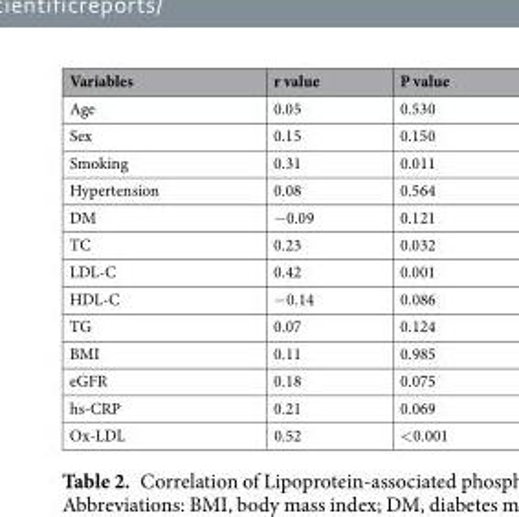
<table><thead><tr><td>Variables</td><td>r value</td><td>P value</td></tr></thead><tbody><tr><td>Age</td><td>0.05</td><td>0.530</td></tr><tr><td>Sex</td><td>0.15</td><td>0.150</td></tr><tr><td>Smoking</td><td>0.31</td><td>0.011</td></tr><tr><td>Hypertension</td><td>0.08</td><td>0.564</td></tr><tr><td>DM</td><td>−0.09</td><td>0.121</td></tr><tr><td>TC</td><td>0.23</td><td>0.032</td></tr><tr><td>LDL-C</td><td>0.42</td><td>0.001</td></tr><tr><td>HDL-C</td><td>−0.14</td><td>0.086</td></tr><tr><td>TG</td><td>0.07</td><td>0.124</td></tr><tr><td>BMI</td><td>0.11</td><td>0.985</td></tr><tr><td>eGFR</td><td>0.18</td><td>0.075</td></tr><tr><td>hs-CRP</td><td>0.21</td><td>0.069</td></tr><tr><td>Ox-LDL</td><td>0.52</td><td>&lt;0.001</td></tr></tbody></table>